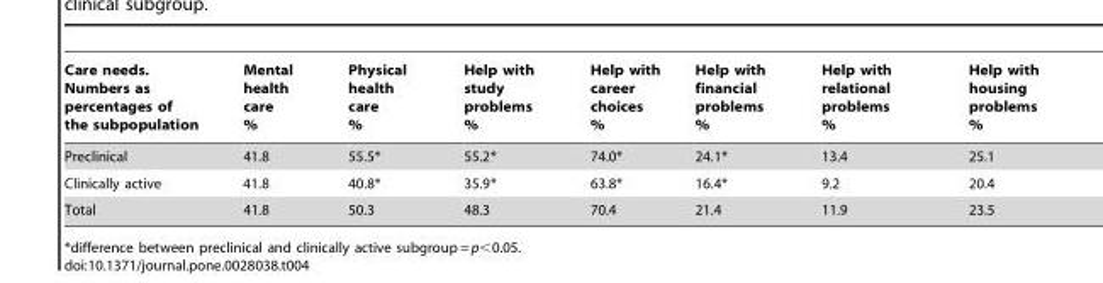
<table><thead><tr><td>Care needs. Numbers as percentages of the subpopulation</td><td>Mental health care %</td><td>Physical health care %</td><td>Help with study problems %</td><td>Help with career choices %</td><td>Help with financial problems %</td><td>Help with relational problems %</td><td>Help with housing problems %</td></tr></thead><tbody><tr><td>Preclinical</td><td>41.8</td><td>55.5*</td><td>55.2*</td><td>74.0*</td><td>24.1*</td><td>13.4</td><td>25.1</td></tr><tr><td>Clinically active</td><td>41.8</td><td>40.8*</td><td>35.9*</td><td>63.8*</td><td>16.4*</td><td>9.2</td><td>20.4</td></tr><tr><td>Total</td><td>41.8</td><td>50.3</td><td>48.3</td><td>70.4</td><td>21.4</td><td>11.9</td><td>23.5</td></tr></tbody></table>